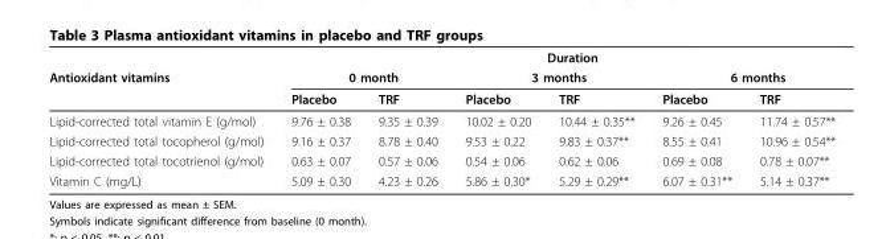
<table><thead><tr><td rowspan="3">Antioxidant vitamins</td><td colspan="6">Duration</td></tr><tr><td colspan="2">0 month</td><td colspan="2">3 months</td><td colspan="2">6 months</td></tr><tr><td>Placebo</td><td>TRF</td><td>Placebo</td><td>TRF</td><td>Placebo</td><td>TRF</td></tr></thead><tbody><tr><td>Lipid-corrected total vitamin E (g/mol)</td><td>9.76 ± 0.38</td><td>9.35 ± 0.39</td><td>10.02 ± 0.20</td><td>10.44 ± 0.35**</td><td>9.26 ± 0.45</td><td>11.74 ± 0.57**</td></tr><tr><td>Lipid-corrected total tocopherol (g/mol)</td><td>9.16 ± 0.37</td><td>8.78 ± 0.40</td><td>9.53 ± 0.22</td><td>9.83 ± 0.37**</td><td>8.55 ± 0.41</td><td>10.96 ± 0.54**</td></tr><tr><td>Lipid-corrected total tocotrienol (g/mol)</td><td>0.63 ± 0.07</td><td>0.57 ± 0.06</td><td>0.54 ± 0.06</td><td>0.62 ± 0.06</td><td>0.69 ± 0.08</td><td>0.78 ± 0.07**</td></tr><tr><td>Vitamin C (mg/L)</td><td>5.09 ± 0.30</td><td>4.23 ± 0.26</td><td>5.86 ± 0.30*</td><td>5.29 ± 0.29**</td><td>6.07 ± 0.31**</td><td>5.14 ± 0.37**</td></tr></tbody></table>